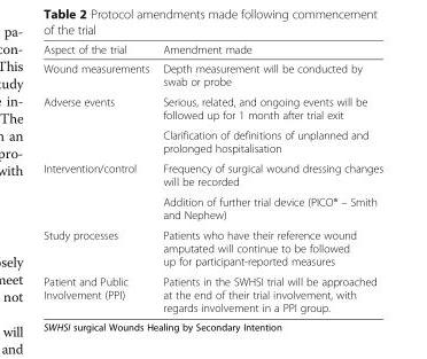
<table><thead><tr><td>Aspect of the trial</td><td>Amendment made</td></tr></thead><tbody><tr><td>Wound measurements</td><td>Depth measurement will be conducted by swab or probe</td></tr><tr><td rowspan="2">Adverse events</td><td>Serious, related, and ongoing events will be followed up for 1 month after trial exit</td></tr><tr><td>Clarification of definitions of unplanned and prolonged hospitalisation</td></tr><tr><td rowspan="2">Intervention/control</td><td>Frequency of surgical wound dressing changes will be recorded</td></tr><tr><td>Addition of further trial device (PICO® – Smith and Nephew)</td></tr><tr><td>Study processes</td><td>Patients who have their reference wound amputated will continue to be followed up for participant-reported measures</td></tr><tr><td>Patient and Public Involvement (PPI)</td><td>Patients in the SWHSI trial will be approached at the end of their trial involvement, with regards involvement in a PPI group.</td></tr></tbody></table>